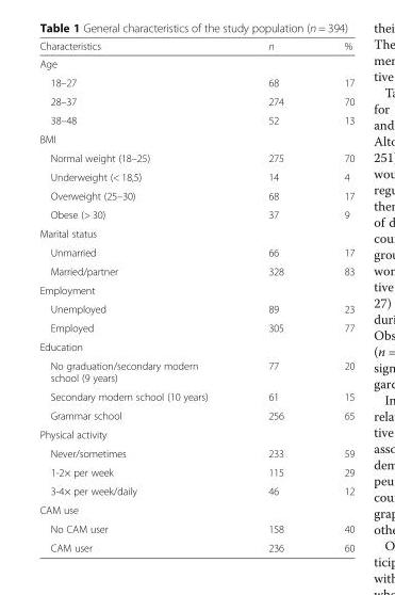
<table><thead><tr><td>Characteristics</td><td>n</td><td>%</td></tr></thead><tbody><tr><td colspan="3">Age</td></tr><tr><td>18–27</td><td>68</td><td>17</td></tr><tr><td>28–37</td><td>274</td><td>70</td></tr><tr><td>38–48</td><td>52</td><td>13</td></tr><tr><td colspan="3">BMI</td></tr><tr><td>Normal weight (18–25)</td><td>275</td><td>70</td></tr><tr><td>Underweight (&lt; 18,5)</td><td>14</td><td>4</td></tr><tr><td>Overweight (25–30)</td><td>68</td><td>17</td></tr><tr><td>Obese (&gt; 30)</td><td>37</td><td>9</td></tr><tr><td colspan="3">Marital status</td></tr><tr><td>Unmarried</td><td>66</td><td>17</td></tr><tr><td>Married/partner</td><td>328</td><td>83</td></tr><tr><td colspan="3">Employment</td></tr><tr><td>Unemployed</td><td>89</td><td>23</td></tr><tr><td>Employed</td><td>305</td><td>77</td></tr><tr><td colspan="3">Education</td></tr><tr><td>No graduation/secondary modern school (9 years)</td><td>77</td><td>20</td></tr><tr><td>Secondary modern school (10 years)</td><td>61</td><td>15</td></tr><tr><td>Grammar school</td><td>256</td><td>65</td></tr><tr><td colspan="3">Physical activity</td></tr><tr><td>Never/sometimes</td><td>233</td><td>59</td></tr><tr><td>1-2× per week</td><td>115</td><td>29</td></tr><tr><td>3-4× per week/daily</td><td>46</td><td>12</td></tr><tr><td colspan="3">CAM use</td></tr><tr><td>No CAM user</td><td>158</td><td>40</td></tr><tr><td>CAM user</td><td>236</td><td>60</td></tr></tbody></table>